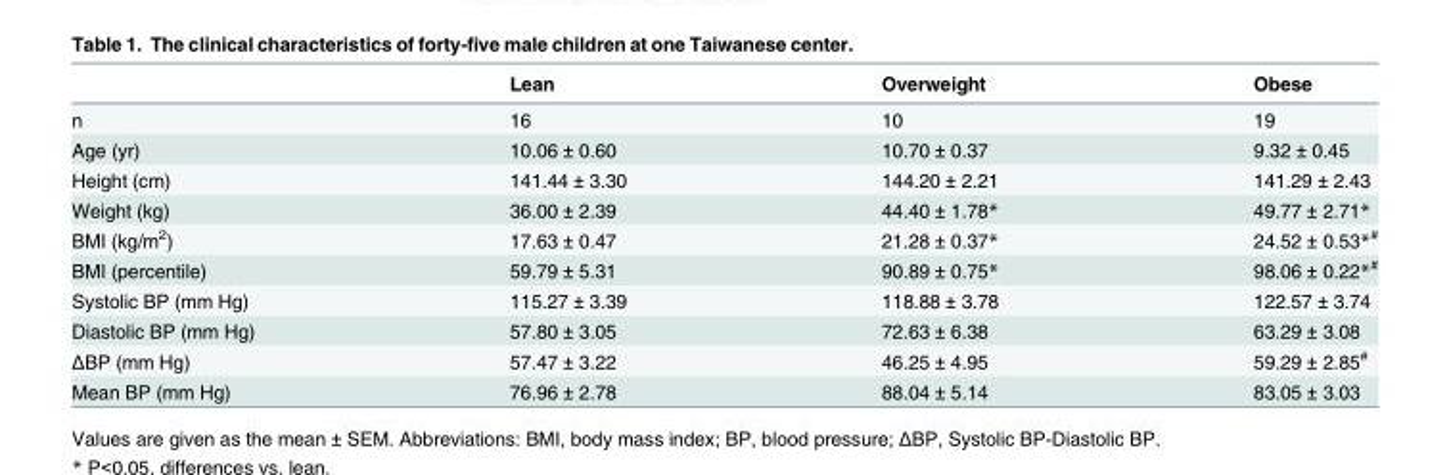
<table><thead><tr><td></td><td>Lean</td><td>Overweight</td><td>Obese</td></tr></thead><tbody><tr><td>n</td><td>16</td><td>10</td><td>19</td></tr><tr><td>Age (yr)</td><td>10.06 ± 0.60</td><td>10.70 ± 0.37</td><td>9.32 ± 0.45</td></tr><tr><td>Height (cm)</td><td>141.44 ± 3.30</td><td>144.20 ± 2.21</td><td>141.29 ± 2.43</td></tr><tr><td>Weight (kg)</td><td>36.00 ± 2.39</td><td>44.40 ± 1.78*</td><td>49.77 ± 2.71*</td></tr><tr><td>BMI (kg/m<sup>2</sup>)</td><td>17.63 ± 0.47</td><td>21.28 ± 0.37*</td><td>24.52 ± 0.53*<sup>#</sup></td></tr><tr><td>BMI (percentile)</td><td>59.79 ± 5.31</td><td>90.89 ± 0.75*</td><td>98.06 ± 0.22*<sup>#</sup></td></tr><tr><td>Systolic BP (mm Hg)</td><td>115.27 ± 3.39</td><td>118.88 ± 3.78</td><td>122.57 ± 3.74</td></tr><tr><td>Diastolic BP (mm Hg)</td><td>57.80 ± 3.05</td><td>72.63 ± 6.38</td><td>63.29 ± 3.08</td></tr><tr><td>ΔBP (mm Hg)</td><td>57.47 ± 3.22</td><td>46.25 ± 4.95</td><td>59.29 ± 2.85<sup>#</sup></td></tr><tr><td>Mean BP (mm Hg)</td><td>76.96 ± 2.78</td><td>88.04 ± 5.14</td><td>83.05 ± 3.03</td></tr></tbody></table>